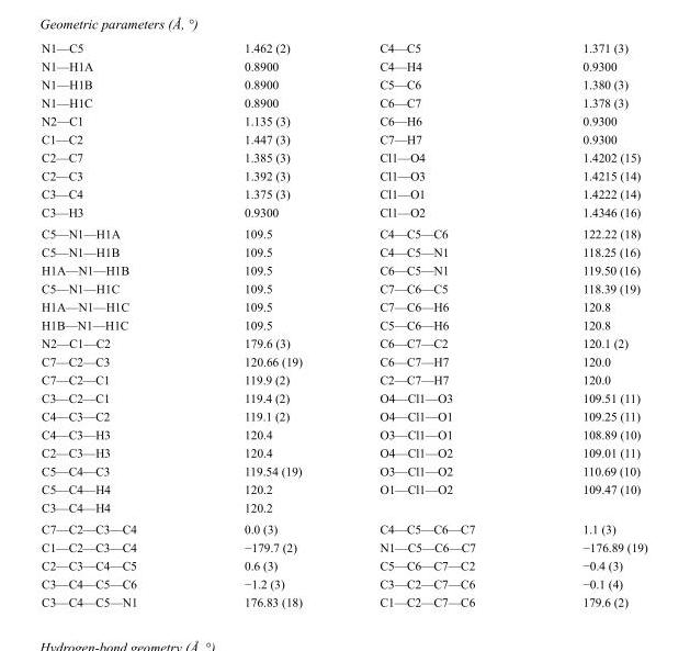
<table><tbody><tr><td>N1—C5</td><td>1.462 (2)</td><td>C4—C5</td><td>1.371 (3)</td></tr><tr><td>N1—H1A</td><td>0.8900</td><td>C4—H4</td><td>0.9300</td></tr><tr><td>N1—H1B</td><td>0.8900</td><td>C5—C6</td><td>1.380 (3)</td></tr><tr><td>N1—H1C</td><td>0.8900</td><td>C6—C7</td><td>1.378 (3)</td></tr><tr><td>N2—C1</td><td>1.135 (3)</td><td>C6—H6</td><td>0.9300</td></tr><tr><td>C1—C2</td><td>1.447 (3)</td><td>C7—H7</td><td>0.9300</td></tr><tr><td>C2—C7</td><td>1.385 (3)</td><td>Cl1—O4</td><td>1.4202 (15)</td></tr><tr><td>C2—C3</td><td>1.392 (3)</td><td>Cl1—O3</td><td>1.4215 (14)</td></tr><tr><td>C3—C4</td><td>1.375 (3)</td><td>Cl1—O1</td><td>1.4222 (14)</td></tr><tr><td>C3—H3</td><td>0.9300</td><td>Cl1—O2</td><td>1.4346 (16)</td></tr><tr><td>C5—N1—H1A</td><td>109.5</td><td>C4—C5—C6</td><td>122.22 (18)</td></tr><tr><td>C5—N1—H1B</td><td>109.5</td><td>C4—C5—N1</td><td>118.25 (16)</td></tr><tr><td>H1A—N1—H1B</td><td>109.5</td><td>C6—C5—N1</td><td>119.50 (16)</td></tr><tr><td>C5—N1—H1C</td><td>109.5</td><td>C7—C6—C5</td><td>118.39 (19)</td></tr><tr><td>H1A—N1—H1C</td><td>109.5</td><td>C7—C6—H6</td><td>120.8</td></tr><tr><td>H1B—N1—H1C</td><td>109.5</td><td>C5—C6—H6</td><td>120.8</td></tr><tr><td>N2—C1—C2</td><td>179.6 (3)</td><td>C6—C7—C2</td><td>120.1 (2)</td></tr><tr><td>C7—C2—C3</td><td>120.66 (19)</td><td>C6—C7—H7</td><td>120.0</td></tr><tr><td>C7—C2—C1</td><td>119.9 (2)</td><td>C2—C7—H7</td><td>120.0</td></tr><tr><td>C3—C2—C1</td><td>119.4 (2)</td><td>O4—Cl1—O3</td><td>109.51 (11)</td></tr><tr><td>C4—C3—C2</td><td>119.1 (2)</td><td>O4—Cl1—O1</td><td>109.25 (11)</td></tr><tr><td>C4—C3—H3</td><td>120.4</td><td>O3—Cl1—O1</td><td>108.89 (10)</td></tr><tr><td>C2—C3—H3</td><td>120.4</td><td>O4—Cl1—O2</td><td>109.01 (11)</td></tr><tr><td>C5—C4—C3</td><td>119.54 (19)</td><td>O3—Cl1—O2</td><td>110.69 (10)</td></tr><tr><td>C5—C4—H4</td><td>120.2</td><td>O1—Cl1—O2</td><td>109.47 (10)</td></tr><tr><td>C3—C4—H4</td><td>120.2</td><td></td><td></td></tr><tr><td>C7—C2—C3—C4</td><td>0.0 (3)</td><td>C4—C5—C6—C7</td><td>1.1 (3)</td></tr><tr><td>C1—C2—C3—C4</td><td>−179.7 (2)</td><td>N1—C5—C6—C7</td><td>−176.89 (19)</td></tr><tr><td>C2—C3—C4—C5</td><td>0.6 (3)</td><td>C5—C6—C7—C2</td><td>−0.4 (3)</td></tr><tr><td>C3—C4—C5—C6</td><td>−1.2 (3)</td><td>C3—C2—C7—C6</td><td>−0.1 (4)</td></tr><tr><td>C3—C4—C5—N1</td><td>176.83 (18)</td><td>C1—C2—C7—C6</td><td>179.6 (2)</td></tr></tbody></table>